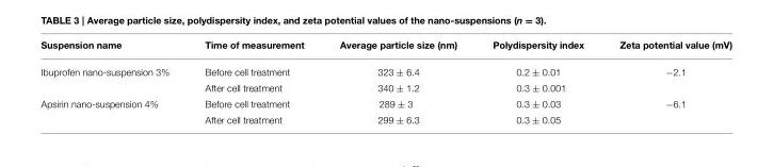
<table><thead><tr><td>Suspension name</td><td>Time of measurement</td><td>Average particle size (nm)</td><td>Polydispersity index</td><td>Zeta potential value (mV)</td></tr></thead><tbody><tr><td rowspan="2">Ibuprofen nano-suspension 3%</td><td>Before cell treatment</td><td>323 ± 6.4</td><td>0.2 ± 0.01</td><td>−2.1</td></tr><tr><td>After cell treatment</td><td>340 ± 1.2</td><td>0.3 ± 0.001</td><td></td></tr><tr><td rowspan="2">Apsirin nano-suspension 4%</td><td>Before cell treatment</td><td>289 ± 3</td><td>0.3 ± 0.03</td><td>−6.1</td></tr><tr><td>After cell treatment</td><td>299 ± 6.3</td><td>0.3 ± 0.05</td><td></td></tr></tbody></table>